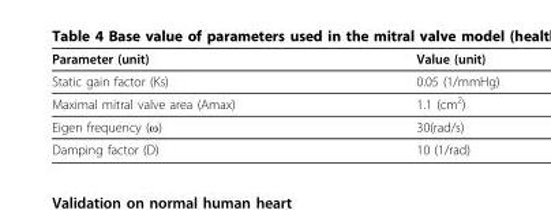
<table><thead><tr><td>Parameter (unit)</td><td>Value (unit)</td></tr></thead><tbody><tr><td>Static gain factor (Ks)</td><td>0.05 (1/mmHg)</td></tr><tr><td>Maximal mitral valve area (Amax)</td><td>1.1 (cm<sup>2</sup>)</td></tr><tr><td>Eigen frequency (ω)</td><td>30(rad/s)</td></tr><tr><td>Damping factor (D)</td><td>10 (1/rad)</td></tr></tbody></table>